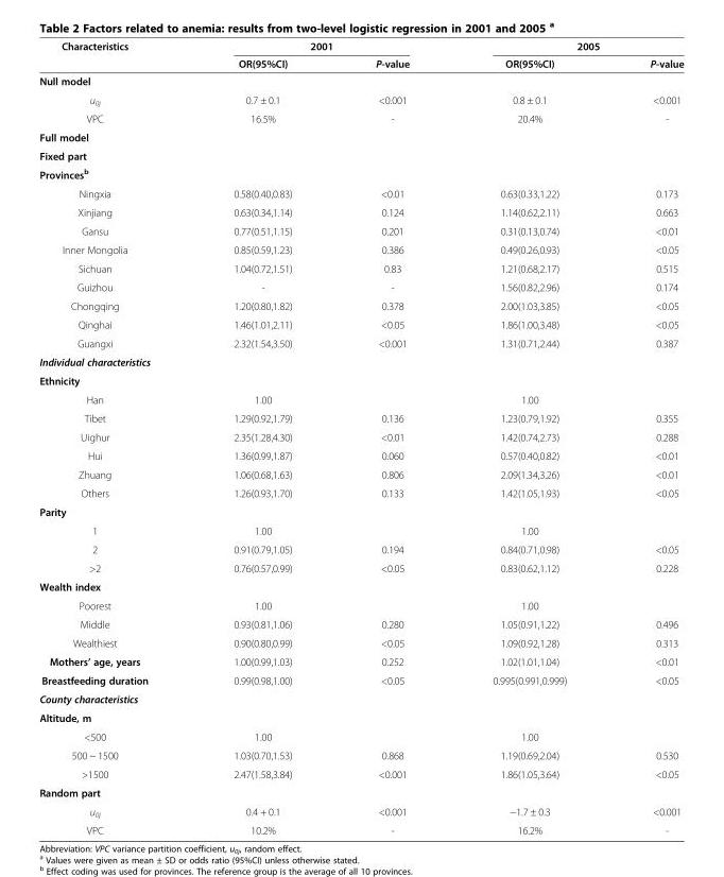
<table><thead><tr><td rowspan="2">Characteristics</td><td colspan="2">2001</td><td colspan="2">2005</td></tr><tr><td>OR(95%CI)</td><td>P-value</td><td>OR(95%CI)</td><td>P-value</td></tr></thead><tbody><tr><td colspan="5">Null model</td></tr><tr><td>u<sub>0j</sub></td><td>0.7 ± 0.1</td><td>&lt;0.001</td><td>0.8 ± 0.1</td><td>&lt;0.001</td></tr><tr><td>VPC</td><td>16.5%</td><td>-</td><td>20.4%</td><td>-</td></tr><tr><td colspan="5">Full model</td></tr><tr><td colspan="5">Fixed part</td></tr><tr><td colspan="5">Provinces<sup>b</sup></td></tr><tr><td>Ningxia</td><td>0.58(0.40,0.83)</td><td>&lt;0.01</td><td>0.63(0.33,1.22)</td><td>0.173</td></tr><tr><td>Xinjiang</td><td>0.63(0.34,1.14)</td><td>0.124</td><td>1.14(0.62,2.11)</td><td>0.663</td></tr><tr><td>Gansu</td><td>0.77(0.51,1.15)</td><td>0.201</td><td>0.31(0.13,0.74)</td><td>&lt;0.01</td></tr><tr><td>Inner Mongolia</td><td>0.85(0.59,1.23)</td><td>0.386</td><td>0.49(0.26,0.93)</td><td>&lt;0.05</td></tr><tr><td>Sichuan</td><td>1.04(0.72,1.51)</td><td>0.83</td><td>1.21(0.68,2.17)</td><td>0.515</td></tr><tr><td>Guizhou</td><td>-</td><td>-</td><td>1.56(0.82,2.96)</td><td>0.174</td></tr><tr><td>Chongqing</td><td>1.20(0.80,1.82)</td><td>0.378</td><td>2.00(1.03,3.85)</td><td>&lt;0.05</td></tr><tr><td>Qinghai</td><td>1.46(1.01,2.11)</td><td>&lt;0.05</td><td>1.86(1.00,3.48)</td><td>&lt;0.05</td></tr><tr><td>Guangxi</td><td>2.32(1.54,3.50)</td><td>&lt;0.001</td><td>1.31(0.71,2.44)</td><td>0.387</td></tr><tr><td colspan="5">Individual characteristics</td></tr><tr><td colspan="5">Ethnicity</td></tr><tr><td>Han</td><td>1.00</td><td></td><td>1.00</td><td></td></tr><tr><td>Tibet</td><td>1.29(0.92,1.79)</td><td>0.136</td><td>1.23(0.79,1.92)</td><td>0.355</td></tr><tr><td>Uighur</td><td>2.35(1.28,4.30)</td><td>&lt;0.01</td><td>1.42(0.74,2.73)</td><td>0.288</td></tr><tr><td>Hui</td><td>1.36(0.99,1.87)</td><td>0.060</td><td>0.57(0.40,0.82)</td><td>&lt;0.01</td></tr><tr><td>Zhuang</td><td>1.06(0.68,1.63)</td><td>0.806</td><td>2.09(1.34,3.26)</td><td>&lt;0.01</td></tr><tr><td>Others</td><td>1.26(0.93,1.70)</td><td>0.133</td><td>1.42(1.05,1.93)</td><td>&lt;0.05</td></tr><tr><td colspan="5">Parity</td></tr><tr><td>1</td><td>1.00</td><td></td><td>1.00</td><td></td></tr><tr><td>2</td><td>0.91(0.79,1.05)</td><td>0.194</td><td>0.84(0.71,0.98)</td><td>&lt;0.05</td></tr><tr><td>&gt;2</td><td>0.76(0.57,0.99)</td><td>&lt;0.05</td><td>0.83(0.62,1.12)</td><td>0.228</td></tr><tr><td colspan="5">Wealth index</td></tr><tr><td>Poorest</td><td>1.00</td><td></td><td>1.00</td><td></td></tr><tr><td>Middle</td><td>0.93(0.81,1.06)</td><td>0.280</td><td>1.05(0.91,1.22)</td><td>0.496</td></tr><tr><td>Wealthiest</td><td>0.90(0.80,0.99)</td><td>&lt;0.05</td><td>1.09(0.92,1.28)</td><td>0.313</td></tr><tr><td>Mothers’ age, years</td><td>1.00(0.99,1.03)</td><td>0.252</td><td>1.02(1.01,1.04)</td><td>&lt;0.01</td></tr><tr><td>Breastfeeding duration</td><td>0.99(0.98,1.00)</td><td>&lt;0.05</td><td>0.995(0.991,0.999)</td><td>&lt;0.05</td></tr><tr><td colspan="5">County characteristics</td></tr><tr><td colspan="5">Altitude, m</td></tr><tr><td>&lt;500</td><td>1.00</td><td></td><td>1.00</td><td></td></tr><tr><td>500 ~ 1500</td><td>1.03(0.70,1.53)</td><td>0.868</td><td>1.19(0.69,2.04)</td><td>0.530</td></tr><tr><td>&gt;1500</td><td>2.47(1.58,3.84)</td><td>&lt;0.001</td><td>1.86(1.05,3.64)</td><td>&lt;0.05</td></tr><tr><td colspan="5">Random part</td></tr><tr><td>u<sub>0j</sub></td><td>0.4 + 0.1</td><td>&lt;0.001</td><td>−1.7 ± 0.3</td><td>&lt;0.001</td></tr><tr><td>VPC</td><td>10.2%</td><td>-</td><td>16.2%</td><td>-</td></tr></tbody></table>